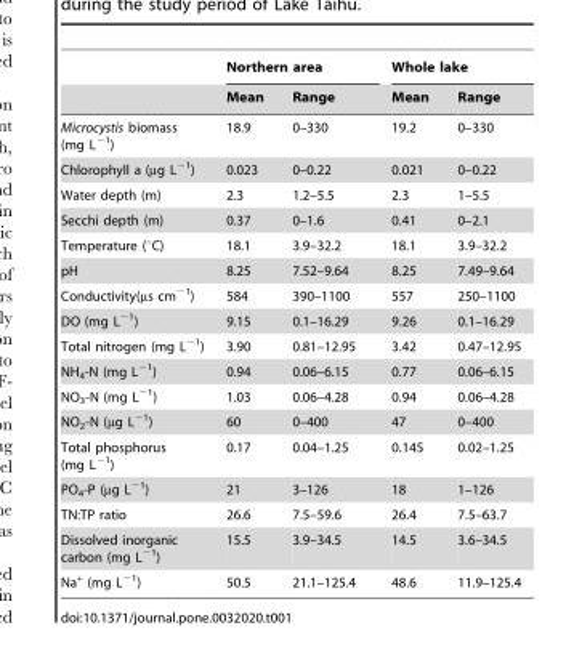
<table><thead><tr><td rowspan="2"></td><td colspan="2">Northern area</td><td colspan="2">Whole lake</td></tr><tr><td>Mean</td><td>Range</td><td>Mean</td><td>Range</td></tr></thead><tbody><tr><td>Microcystis biomass (mg L<sup>−1</sup>)</td><td>18.9</td><td>0–330</td><td>19.2</td><td>0–330</td></tr><tr><td>Chlorophyll a (µg L<sup>−1</sup>)</td><td>0.023</td><td>0–0.22</td><td>0.021</td><td>0–0.22</td></tr><tr><td>Water depth (m)</td><td>2.3</td><td>1.2–5.5</td><td>2.3</td><td>1–5.5</td></tr><tr><td>Secchi depth (m)</td><td>0.37</td><td>0–1.6</td><td>0.41</td><td>0–2.1</td></tr><tr><td>Temperature (°C)</td><td>18.1</td><td>3.9–32.2</td><td>18.1</td><td>3.9–32.2</td></tr><tr><td>pH</td><td>8.25</td><td>7.52–9.64</td><td>8.25</td><td>7.49–9.64</td></tr><tr><td>Conductivity(µs cm<sup>−1</sup>)</td><td>584</td><td>390–1100</td><td>557</td><td>250–1100</td></tr><tr><td>DO (mg L<sup>−1</sup>)</td><td>9.15</td><td>0.1–16.29</td><td>9.26</td><td>0.1–16.29</td></tr><tr><td>Total nitrogen (mg L<sup>−1</sup>)</td><td>3.90</td><td>0.81–12.95</td><td>3.42</td><td>0.47–12.95</td></tr><tr><td>NH<sub>4</sub>-N (mg L<sup>−1</sup>)</td><td>0.94</td><td>0.06–6.15</td><td>0.77</td><td>0.06–6.15</td></tr><tr><td>NO<sub>3</sub>-N (mg L<sup>−1</sup>)</td><td>1.03</td><td>0.06–4.28</td><td>0.94</td><td>0.06–4.28</td></tr><tr><td>NO<sub>2</sub>-N (µg L<sup>−1</sup>)</td><td>60</td><td>0–400</td><td>47</td><td>0–400</td></tr><tr><td>Total phosphorus (mg L<sup>−1</sup>)</td><td>0.17</td><td>0.04–1.25</td><td>0.145</td><td>0.02–1.25</td></tr><tr><td>PO<sub>4</sub>-P (µg L<sup>−1</sup>)</td><td>21</td><td>3–126</td><td>18</td><td>1–126</td></tr><tr><td>TN:TP ratio</td><td>26.6</td><td>7.5–59.6</td><td>26.4</td><td>7.5–63.7</td></tr><tr><td>Dissolved inorganic carbon (mg L<sup>−1</sup>)</td><td>15.5</td><td>3.9–34.5</td><td>14.5</td><td>3.6–34.5</td></tr><tr><td>Na<sup>+</sup> (mg L<sup>−1</sup>)</td><td>50.5</td><td>21.1–125.4</td><td>48.6</td><td>11.9–125.4</td></tr></tbody></table>